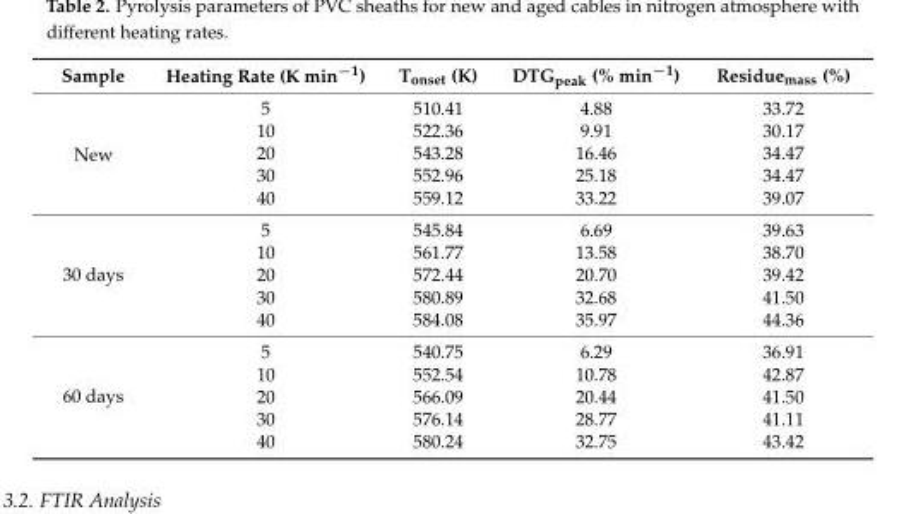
<table><thead><tr><td>Sample</td><td>Heating Rate (K min<sup>−1</sup>)</td><td>T<sub>onset</sub> (K)</td><td>DTG<sub>peak</sub> (% min<sup>−1</sup>)</td><td>Residue<sub>mass</sub> (%)</td></tr></thead><tbody><tr><td rowspan="5">New</td><td>5</td><td>510.41</td><td>4.88</td><td>33.72</td></tr><tr><td>10</td><td>522.36</td><td>9.91</td><td>30.17</td></tr><tr><td>20</td><td>543.28</td><td>16.46</td><td>34.47</td></tr><tr><td>30</td><td>552.96</td><td>25.18</td><td>34.47</td></tr><tr><td>40</td><td>559.12</td><td>33.22</td><td>39.07</td></tr><tr><td rowspan="5">30 days</td><td>5</td><td>545.84</td><td>6.69</td><td>39.63</td></tr><tr><td>10</td><td>561.77</td><td>13.58</td><td>38.70</td></tr><tr><td>20</td><td>572.44</td><td>20.70</td><td>39.42</td></tr><tr><td>30</td><td>580.89</td><td>32.68</td><td>41.50</td></tr><tr><td>40</td><td>584.08</td><td>35.97</td><td>44.36</td></tr><tr><td rowspan="5">60 days</td><td>5</td><td>540.75</td><td>6.29</td><td>36.91</td></tr><tr><td>10</td><td>552.54</td><td>10.78</td><td>42.87</td></tr><tr><td>20</td><td>566.09</td><td>20.44</td><td>41.50</td></tr><tr><td>30</td><td>576.14</td><td>28.77</td><td>41.11</td></tr><tr><td>40</td><td>580.24</td><td>32.75</td><td>43.42</td></tr></tbody></table>